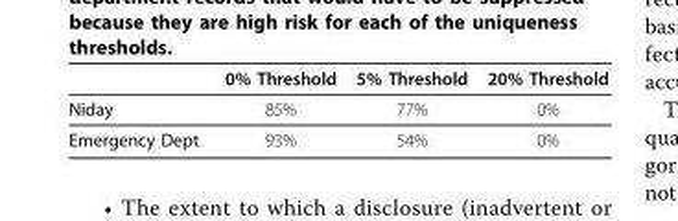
<table><thead><tr><td></td><td>0% Threshold</td><td>5% Threshold</td><td>20% Threshold</td></tr></thead><tbody><tr><td>Niday</td><td>85%</td><td>77%</td><td>0%</td></tr><tr><td>Emergency Dept.</td><td>93%</td><td>54%</td><td>0%</td></tr></tbody></table>